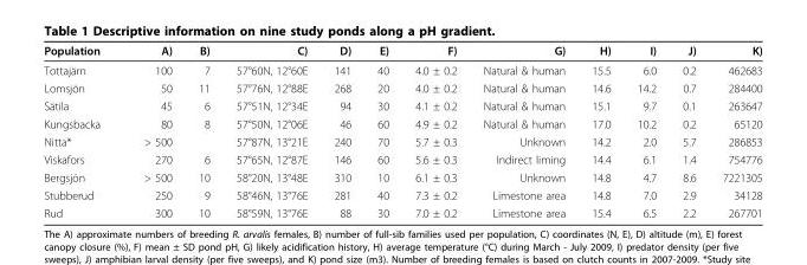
<table><thead><tr><td>Population</td><td>A)</td><td>B)</td><td>C)</td><td>D)</td><td>E)</td><td>F)</td><td>G)</td><td>H)</td><td>I)</td><td>J)</td><td>K)</td></tr></thead><tbody><tr><td>Tottajärn</td><td>100</td><td>7</td><td>57°60N, 12°60E</td><td>141</td><td>40</td><td>4.0 ± 0.2</td><td>Natural &amp; human</td><td>15.5</td><td>6.0</td><td>0.2</td><td>462683</td></tr><tr><td>Lomsjön</td><td>50</td><td>11</td><td>57°76N, 12°88E</td><td>268</td><td>20</td><td>4.0 ± 0.2</td><td>Natural &amp; human</td><td>14.6</td><td>14.2</td><td>0.7</td><td>284400</td></tr><tr><td>Sätila</td><td>45</td><td>6</td><td>57°51N, 12°34E</td><td>94</td><td>30</td><td>4.1 ± 0.2</td><td>Natural &amp; human</td><td>15.1</td><td>9.7</td><td>0.1</td><td>263647</td></tr><tr><td>Kungsbacka</td><td>80</td><td>8</td><td>57°50N, 12°06E</td><td>46</td><td>60</td><td>4.9 ± 0.2</td><td>Natural &amp; human</td><td>17.0</td><td>10.2</td><td>0.2</td><td>65120</td></tr><tr><td>Nitta*</td><td>&gt; 500</td><td></td><td>57°87N, 13°21E</td><td>240</td><td>70</td><td>5.7 ± 0.3</td><td>Unknown</td><td>14.2</td><td>2.0</td><td>5.7</td><td>286853</td></tr><tr><td>Viskafors</td><td>270</td><td>6</td><td>57°65N, 12°87E</td><td>146</td><td>60</td><td>5.6 ± 0.3</td><td>Indirect liming</td><td>14.4</td><td>6.1</td><td>1.4</td><td>754776</td></tr><tr><td>Bergsjön</td><td>&gt; 500</td><td>10</td><td>58°20N, 13°48E</td><td>310</td><td>10</td><td>6.1 ± 0.3</td><td>Unknown</td><td>14.8</td><td>4.7</td><td>8.6</td><td>7221305</td></tr><tr><td>Stubberud</td><td>250</td><td>9</td><td>58°46N, 13°76E</td><td>281</td><td>40</td><td>7.3 ± 0.2</td><td>Limestone area</td><td>14.8</td><td>7.0</td><td>2.9</td><td>34128</td></tr><tr><td>Rud</td><td>300</td><td>10</td><td>58°59N, 13°76E</td><td>88</td><td>30</td><td>7.0 ± 0.2</td><td>Limestone area</td><td>15.4</td><td>6.5</td><td>2.2</td><td>267701</td></tr></tbody></table>